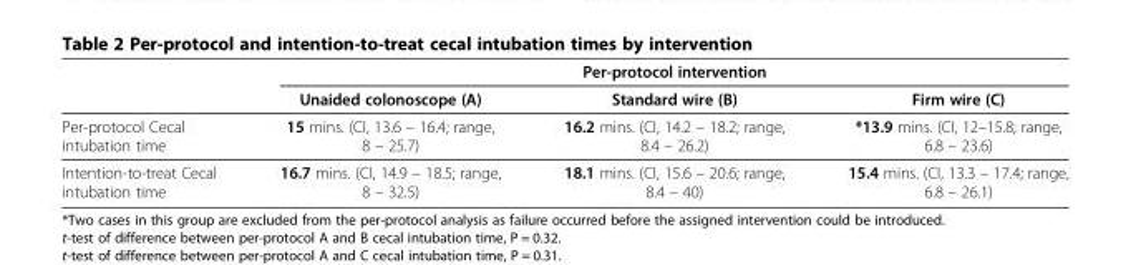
<table><thead><tr><td rowspan="2"></td><td colspan="3">Per-protocol intervention</td></tr><tr><td>Unaided colonoscope (A)</td><td>Standard wire (B)</td><td>Firm wire (C)</td></tr></thead><tbody><tr><td>Per-protocol Cecal intubation time</td><td>15 mins. (CI, 13.6 – 16.4; range, 8 – 25.7)</td><td>16.2 mins. (CI, 14.2 – 18.2; range, 8.4 – 26.2)</td><td>*13.9 mins. (CI, 12–15.8; range, 6.8 – 23.6)</td></tr><tr><td>Intention-to-treat Cecal intubation time</td><td>16.7 mins. (CI, 14.9 – 18.5; range, 8 – 32.5)</td><td>18.1 mins. (CI, 15.6 – 20.6; range, 8.4 – 40)</td><td>15.4 mins. (CI, 13.3 – 17.4; range, 6.8 – 26.1)</td></tr></tbody></table>